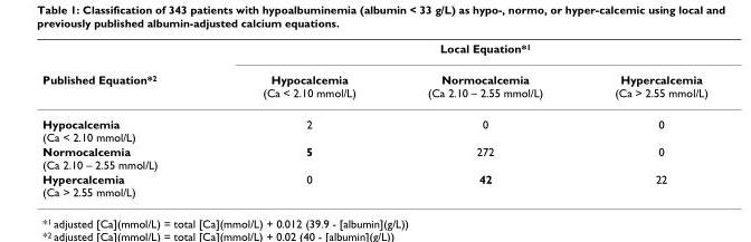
<table><thead><tr><td rowspan="2">Published Equation*<sup>2</sup></td><td colspan="3">Local Equation*<sup>1</sup></td></tr><tr><td>Hypocalcemia (Ca &lt; 2.10 mmol/L)</td><td>Normocalcemia (Ca 2.10 – 2.55 mmol/L)</td><td>Hypercalcemia (Ca &gt; 2.55 mmol/L)</td></tr></thead><tbody><tr><td>Hypocalcemia (Ca &lt; 2.10 mmol/L)</td><td>2</td><td>0</td><td>0</td></tr><tr><td>Normocalcemia (Ca 2.10 – 2.55 mmol/L)</td><td>5</td><td>272</td><td>0</td></tr><tr><td>Hypercalcemia (Ca &gt; 2.55 mmol/L)</td><td>0</td><td>42</td><td>22</td></tr></tbody></table>